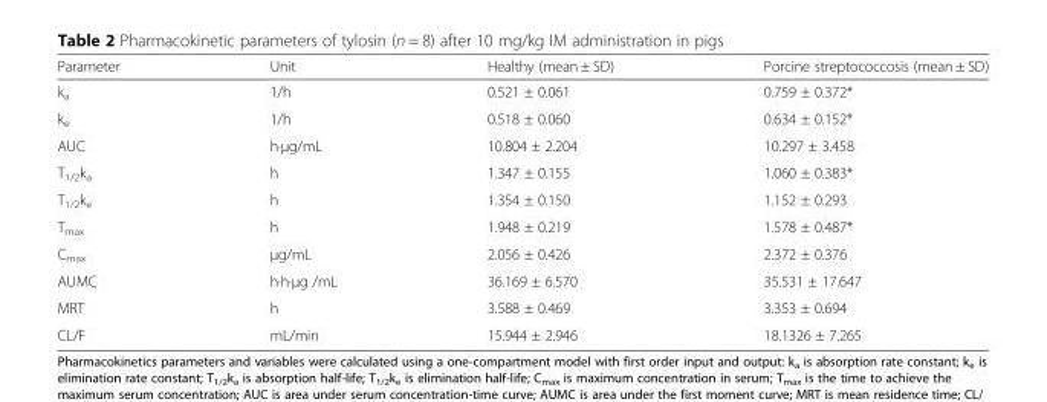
<table><thead><tr><td>Parameter</td><td>Unit</td><td>Healthy (mean ± SD)</td><td>Porcine streptococcosis (mean ± SD)</td></tr></thead><tbody><tr><td>k<sub>a</sub></td><td>1/h</td><td>0.521 ± 0.061</td><td>0.759 ± 0.372*</td></tr><tr><td>k<sub>e</sub></td><td>1/h</td><td>0.518 ± 0.060</td><td>0.634 ± 0.152*</td></tr><tr><td>AUC</td><td>h·μg/mL</td><td>10.804 ± 2.204</td><td>10.297 ± 3.458</td></tr><tr><td>T<sub>1/2</sub>k<sub>a</sub></td><td>h</td><td>1.347 ± 0.155</td><td>1.060 ± 0.383*</td></tr><tr><td>T<sub>1/2</sub>k<sub>e</sub></td><td>h</td><td>1.354 ± 0.150</td><td>1.152 ± 0.293</td></tr><tr><td>T<sub>max</sub></td><td>h</td><td>1.948 ± 0.219</td><td>1.578 ± 0.487*</td></tr><tr><td>C<sub>max</sub></td><td>μg/mL</td><td>2.056 ± 0.426</td><td>2.372 ± 0.376</td></tr><tr><td>AUMC</td><td>h·h·μg /mL</td><td>36.169 ± 6.570</td><td>35.531 ± 17.647</td></tr><tr><td>MRT</td><td>h</td><td>3.588 ± 0.469</td><td>3.353 ± 0.694</td></tr><tr><td>CL/F</td><td>mL/min</td><td>15.944 ± 2.946</td><td>18.1326 ± 7.265</td></tr></tbody></table>